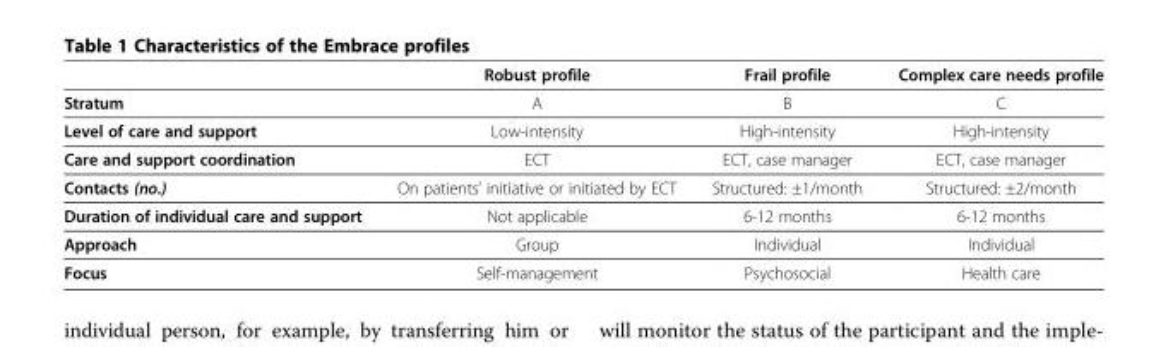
<table><thead><tr><td></td><td>Robust profile</td><td>Frail profile</td><td>Complex care needs profile</td></tr></thead><tbody><tr><td>Stratum</td><td>A</td><td>B</td><td>C</td></tr><tr><td>Level of care and support</td><td>Low-intensity</td><td>High-intensity</td><td>High-intensity</td></tr><tr><td>Care and support coordination</td><td>ECT</td><td>ECT, case manager</td><td>ECT, case manager</td></tr><tr><td>Contacts (no.)</td><td>On patients’ initiative or initiated by ECT</td><td>Structured: ±1/month</td><td>Structured: ±2/month</td></tr><tr><td>Duration of individual care and support</td><td>Not applicable</td><td>6-12 months</td><td>6-12 months</td></tr><tr><td>Approach</td><td>Group</td><td>Individual</td><td>Individual</td></tr><tr><td>Focus</td><td>Self-management</td><td>Psychosocial</td><td>Health care</td></tr></tbody></table>